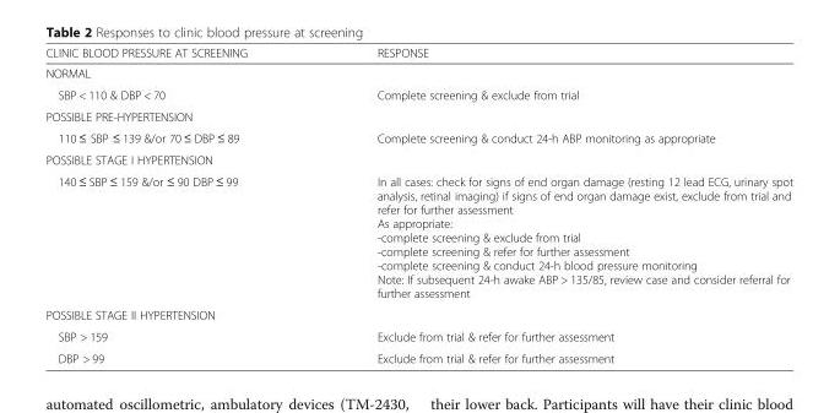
<table><thead><tr><td>CLINIC BLOOD PRESSURE AT SCREENING</td><td>RESPONSE</td></tr></thead><tbody><tr><td colspan="2">NORMAL</td></tr><tr><td>SBP &lt; 110 &amp; DBP &lt; 70</td><td>Complete screening &amp; exclude from trial</td></tr><tr><td colspan="2">POSSIBLE PRE-HYPERTENSION</td></tr><tr><td>110 ≤ SBP ≤ 139 &amp;/or 70 ≤ DBP ≤ 89</td><td>Complete screening &amp; conduct 24-h ABP monitoring as appropriate</td></tr><tr><td colspan="2">POSSIBLE STAGE I HYPERTENSION</td></tr><tr><td>140 ≤ SBP ≤ 159 &amp;/or ≤ 90 DBP ≤ 99</td><td>In all cases: check for signs of end organ damage (resting 12 lead ECG, urinary spot analysis, retinal imaging) if signs of end organ damage exist, exclude from trial and refer for further assessment As appropriate: -complete screening &amp; exclude from trial -complete screening &amp; refer for further assessment -complete screening &amp; conduct 24-h blood pressure monitoring Note: If subsequent 24-h awake ABP &gt; 135/85, review case and consider referral for further assessment</td></tr><tr><td colspan="2">POSSIBLE STAGE II HYPERTENSION</td></tr><tr><td>SBP &gt; 159</td><td>Exclude from trial &amp; refer for further assessment</td></tr><tr><td>DBP &gt; 99</td><td>Exclude from trial &amp; refer for further assessment</td></tr></tbody></table>